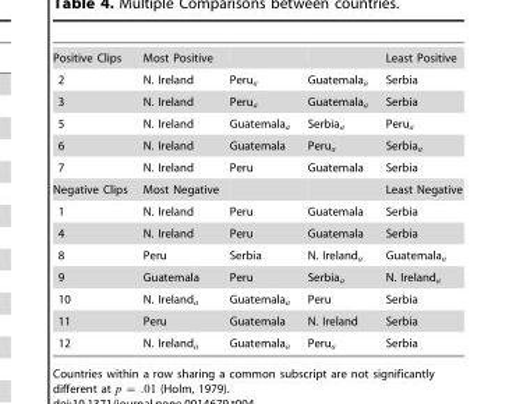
<table><tbody><tr><td>Positive Clips</td><td>Most Positive</td><td></td><td></td><td>Least Positive</td></tr><tr><td>2</td><td>N. Ireland</td><td>Perua</td><td>Guatemalaa</td><td>Serbia</td></tr><tr><td>3</td><td>N. Ireland</td><td>Perua</td><td>Guatemalaa</td><td>Serbia</td></tr><tr><td>5</td><td>N. Ireland</td><td>Guatemalaa</td><td>Serbiaa</td><td>Perua</td></tr><tr><td>6</td><td>N. Ireland</td><td>Guatemala</td><td>Perua</td><td>Serbiaa</td></tr><tr><td>7</td><td>N. Ireland</td><td>Peru</td><td>Guatemala</td><td>Serbia</td></tr><tr><td>Negative Clips</td><td>Most Negative</td><td></td><td></td><td>Least Negative</td></tr><tr><td>1</td><td>N. Ireland</td><td>Peru</td><td>Guatemala</td><td>Serbia</td></tr><tr><td>4</td><td>N. Ireland</td><td>Peru</td><td>Guatemala</td><td>Serbia</td></tr><tr><td>8</td><td>Peru</td><td>Serbia</td><td>N. Irelanda</td><td>Guatemalaa</td></tr><tr><td>9</td><td>Guatemala</td><td>Peru</td><td>Serbiaa</td><td>N. Irelanda</td></tr><tr><td>10</td><td>N. Irelanda</td><td>Guatemalaa</td><td>Peru</td><td>Serbia</td></tr><tr><td>11</td><td>Peru</td><td>Guatemala</td><td>N. Ireland</td><td>Serbia</td></tr><tr><td>12</td><td>N. Irelanda</td><td>Guatemalaa</td><td>Perua</td><td>Serbia</td></tr></tbody></table>